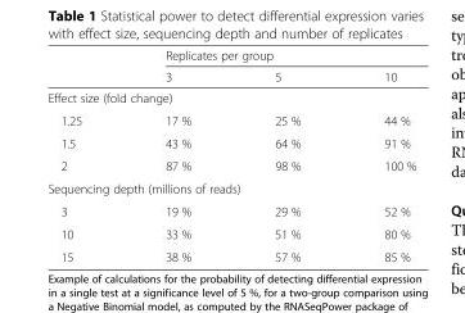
<table><thead><tr><td rowspan="2"></td><td colspan="3">Replicates per group</td></tr><tr><td>3</td><td>5</td><td>10</td></tr></thead><tbody><tr><td colspan="4">Effect size (fold change)</td></tr><tr><td>1.25</td><td>17 %</td><td>25 %</td><td>44 %</td></tr><tr><td>1.5</td><td>43 %</td><td>64 %</td><td>91 %</td></tr><tr><td>2</td><td>87 %</td><td>98 %</td><td>100 %</td></tr><tr><td colspan="4">Sequencing depth (millions of reads)</td></tr><tr><td>3</td><td>19 %</td><td>29 %</td><td>52 %</td></tr><tr><td>10</td><td>33 %</td><td>51 %</td><td>80 %</td></tr><tr><td>15</td><td>38 %</td><td>57 %</td><td>85 %</td></tr></tbody></table>